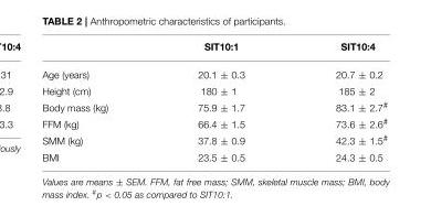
<table><thead><tr><td></td><td>SIT10:1</td><td>SIT10:4</td></tr></thead><tbody><tr><td>Age (years)</td><td>20.1 ± 0.3</td><td>20.7 ± 0.2</td></tr><tr><td>Height (cm)</td><td>180 ± 1</td><td>185 ± 2</td></tr><tr><td>Body mass (kg)</td><td>75.9 ± 1.7</td><td>83.1 ± 2.7<sup>#</sup></td></tr><tr><td>FFM (kg)</td><td>66.4 ± 1.5</td><td>73.6 ± 2.6<sup>#</sup></td></tr><tr><td>SMM (kg)</td><td>37.8 ± 0.9</td><td>42.3 ± 1.5<sup>#</sup></td></tr><tr><td>BMI</td><td>23.5 ± 0.5</td><td>24.3 ± 0.5</td></tr></tbody></table>